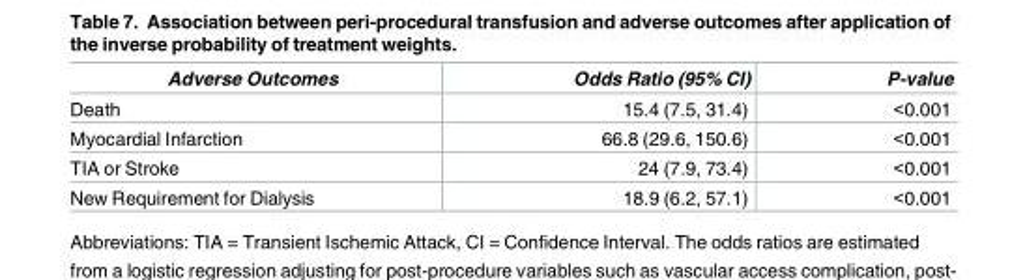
<table><thead><tr><td>Adverse Outcomes</td><td>Odds Ratio (95% CI)</td><td>P-value</td></tr></thead><tbody><tr><td>Death</td><td>15.4 (7.5, 31.4)</td><td>&lt;0.001</td></tr><tr><td>Myocardial Infarction</td><td>66.8 (29.6, 150.6)</td><td>&lt;0.001</td></tr><tr><td>TIA or Stroke</td><td>24 (7.9, 73.4)</td><td>&lt;0.001</td></tr><tr><td>New Requirement for Dialysis</td><td>18.9 (6.2, 57.1)</td><td>&lt;0.001</td></tr></tbody></table>